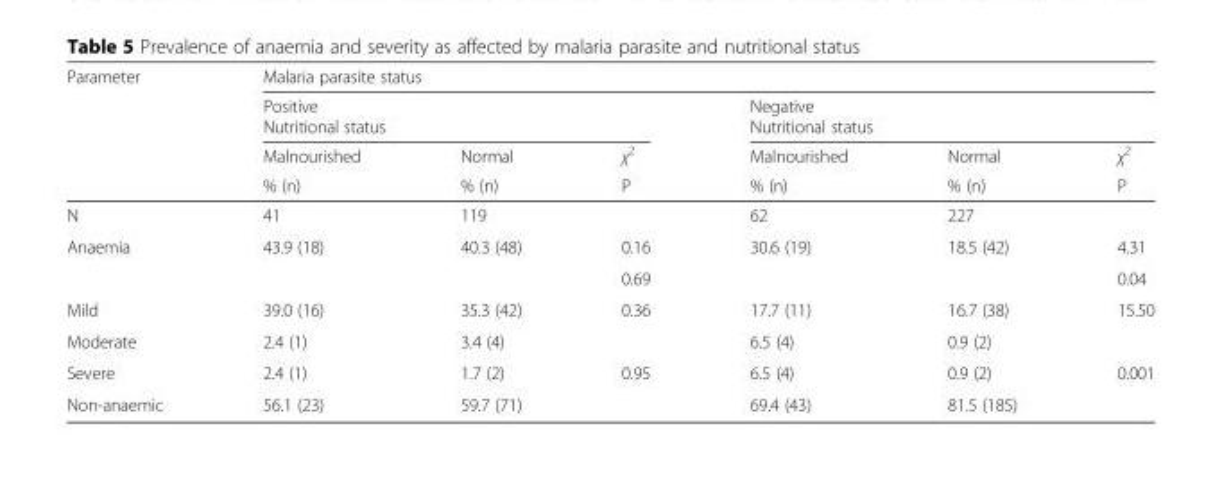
<table><thead><tr><td rowspan="5">Parameter</td><td colspan="6">Malaria parasite status</td></tr><tr><td rowspan="2" colspan="3">Positive Nutritional status</td><td rowspan="2" colspan="3">Negative Nutritional status</td></tr><tr></tr><tr><td rowspan="2">Malnourished % (n)</td><td rowspan="2">Normal % (n)</td><td rowspan="2">χ<sup>2</sup> P</td><td rowspan="2">Malnourished % (n)</td><td rowspan="2">Normal % (n)</td><td rowspan="2">χ<sup>2</sup> P</td></tr><tr></tr></thead><tbody><tr><td>N</td><td>41</td><td>119</td><td></td><td>62</td><td>227</td><td></td></tr><tr><td rowspan="2">Anaemia</td><td rowspan="2">43.9 (18)</td><td rowspan="2">40.3 (48)</td><td>0.16</td><td rowspan="2">30.6 (19)</td><td rowspan="2">18.5 (42)</td><td>4.31</td></tr><tr><td>0.69</td><td>0.04</td></tr><tr><td>Mild</td><td>39.0 (16)</td><td>35.3 (42)</td><td rowspan="2">0.36</td><td>17.7 (11)</td><td>16.7 (38)</td><td rowspan="2">15.50</td></tr><tr><td>Moderate</td><td>2.4 (1)</td><td>3.4 (4)</td><td>6.5 (4)</td><td>0.9 (2)</td></tr><tr><td>Severe</td><td>2.4 (1)</td><td>1.7 (2)</td><td rowspan="2">0.95</td><td>6.5 (4)</td><td>0.9 (2)</td><td rowspan="2">0.001</td></tr><tr><td>Non-anaemic</td><td>56.1 (23)</td><td>59.7 (71)</td><td>69.4 (43)</td><td>81.5 (185)</td></tr></tbody></table>